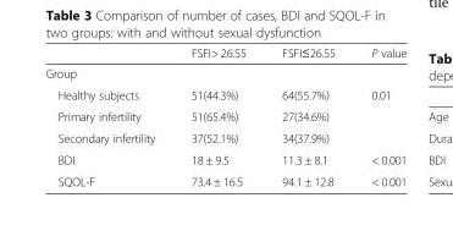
<table><thead><tr><td></td><td>FSFI&gt; 26.55</td><td>FSFI≤26.55</td><td>P value</td></tr></thead><tbody><tr><td colspan="4">Group</td></tr><tr><td>Healthy subjects</td><td>51(44.3%)</td><td>64(55.7%)</td><td>0.01</td></tr><tr><td>Primary infertility</td><td>51(65.4%)</td><td>27(34.6%)</td><td></td></tr><tr><td>Secondary infertility</td><td>37(52.1%)</td><td>34(37.9%)</td><td></td></tr><tr><td>BDI</td><td>18 ± 9.5</td><td>11.3 ± 8.1</td><td>&lt; 0.001</td></tr><tr><td>SQOL-F</td><td>73.4 ± 16.5</td><td>94.1 ± 12.8</td><td>&lt; 0.001</td></tr></tbody></table>